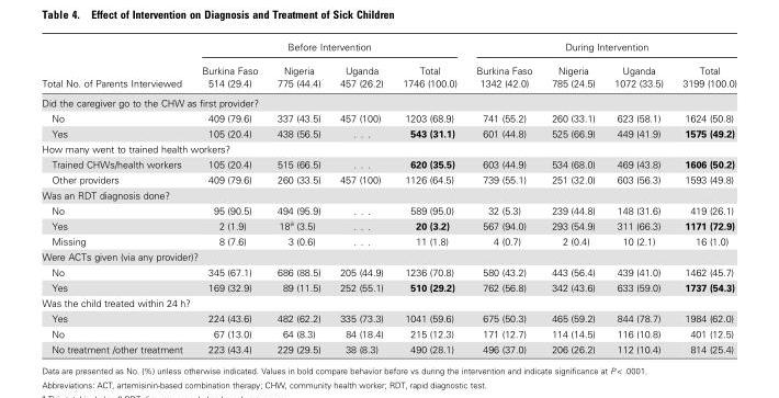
<table><thead><tr><td rowspan="3">Total No. of Parents Interviewed</td><td colspan="4">Before Intervention</td><td colspan="4">During Intervention</td></tr><tr><td rowspan="2">Burkina Faso 514 (29.4)</td><td rowspan="2">Nigeria 775 (44.4)</td><td rowspan="2">Uganda 457 (26.2)</td><td rowspan="2">Total 1746 (100.0)</td><td rowspan="2">Burkina Faso 1342 (42.0)</td><td rowspan="2">Nigeria 785 (24.5)</td><td rowspan="2">Uganda 1072 (33.5)</td><td rowspan="2">Total 3199 (100.0)</td></tr><tr></tr></thead><tbody><tr><td colspan="9">Did the caregiver go to the CHW as first provider?</td></tr><tr><td>No</td><td>409 (79.6)</td><td>337 (43.5)</td><td>457 (100)</td><td>1203 (68.9)</td><td>741 (55.2)</td><td>260 (33.1)</td><td>623 (58.1)</td><td>1624 (50.8)</td></tr><tr><td>Yes</td><td>105 (20.4)</td><td>438 (56.5)</td><td>. . .</td><td>543 (31.1)</td><td>601 (44.8)</td><td>525 (66.9)</td><td>449 (41.9)</td><td>1575 (49.2)</td></tr><tr><td colspan="9">How many went to trained health workers?</td></tr><tr><td>Trained CHWs/health workers</td><td>105 (20.4)</td><td>515 (66.5)</td><td>. . .</td><td>620 (35.5)</td><td>603 (44.9)</td><td>534 (68.0)</td><td>469 (43.8)</td><td>1606 (50.2)</td></tr><tr><td>Other providers</td><td>409 (79.6)</td><td>260 (33.5)</td><td>457 (100)</td><td>1126 (64.5)</td><td>739 (55.1)</td><td>251 (32.0)</td><td>603 (56.3)</td><td>1593 (49.8)</td></tr><tr><td colspan="9">Was an RDT diagnosis done?</td></tr><tr><td>No</td><td>95 (90.5)</td><td>494 (95.9)</td><td>. . .</td><td>589 (95.0)</td><td>32 (5.3)</td><td>239 (44.8)</td><td>148 (31.6)</td><td>419 (26.1)</td></tr><tr><td>Yes</td><td>2 (1.9)</td><td>18<sup>a</sup> (3.5)</td><td>. . .</td><td>20 (3.2)</td><td>567 (94.0)</td><td>293 (54.9)</td><td>311 (66.3)</td><td>1171 (72.9)</td></tr><tr><td>Missing</td><td>8 (7.6)</td><td>3 (0.6)</td><td>. . .</td><td>11 (1.8)</td><td>4 (0.7)</td><td>2 (0.4)</td><td>10 (2.1)</td><td>16 (1.0)</td></tr><tr><td colspan="9">Were ACTs given (via any provider)?</td></tr><tr><td>No</td><td>345 (67.1)</td><td>686 (88.5)</td><td>205 (44.9)</td><td>1236 (70.8)</td><td>580 (43.2)</td><td>443 (56.4)</td><td>439 (41.0)</td><td>1462 (45.7)</td></tr><tr><td>Yes</td><td>169 (32.9)</td><td>89 (11.5)</td><td>252 (55.1)</td><td>510 (29.2)</td><td>762 (56.8)</td><td>342 (43.6)</td><td>633 (59.0)</td><td>1737 (54.3)</td></tr><tr><td colspan="9">Was the child treated within 24 h?</td></tr><tr><td>Yes</td><td>224 (43.6)</td><td>482 (62.2)</td><td>335 (73.3)</td><td>1041 (59.6)</td><td>675 (50.3)</td><td>465 (59.2)</td><td>844 (78.7)</td><td>1984 (62.0)</td></tr><tr><td>No</td><td>67 (13.0)</td><td>64 (8.3)</td><td>84 (18.4)</td><td>215 (12.3)</td><td>171 (12.7)</td><td>114 (14.5)</td><td>116 (10.8)</td><td>401 (12.5)</td></tr><tr><td>No treatment /other treatment</td><td>223 (43.4)</td><td>229 (29.5)</td><td>38 (8.3)</td><td>490 (28.1)</td><td>496 (37.0)</td><td>206 (26.2)</td><td>112 (10.4)</td><td>814 (25.4)</td></tr></tbody></table>